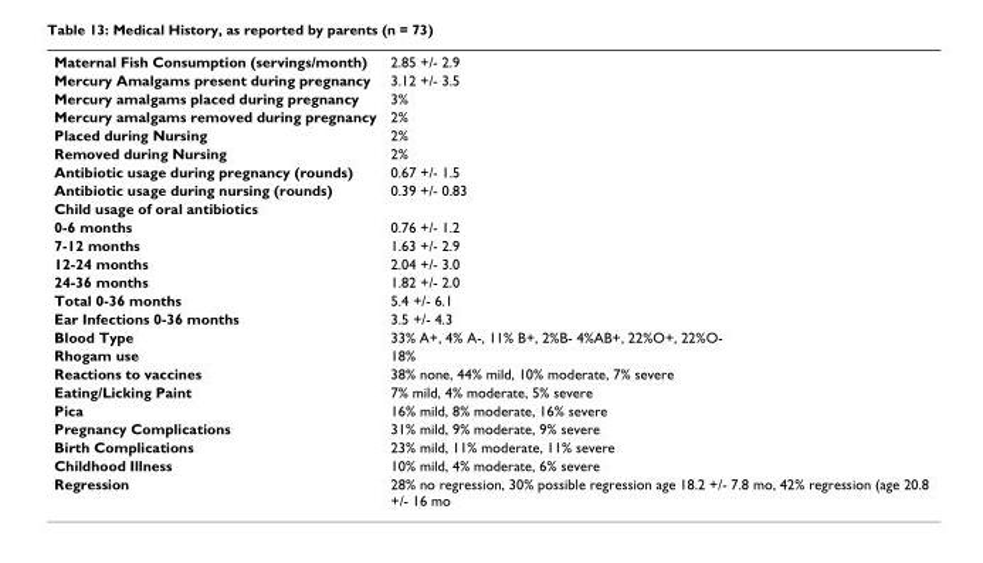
<table><tbody><tr><td>Maternal Fish Consumption (servings/month)</td><td>2.85 +/- 2.9</td></tr><tr><td>Mercury Amalgams present during pregnancy</td><td>3.12 +/- 3.5</td></tr><tr><td>Mercury amalgams placed during pregnancy</td><td>3%</td></tr><tr><td>Mercury amalgams removed during pregnancy</td><td>2%</td></tr><tr><td>Placed during Nursing</td><td>2%</td></tr><tr><td>Removed during Nursing</td><td>2%</td></tr><tr><td>Antibiotic usage during pregnancy (rounds)</td><td>0.67 +/- 1.5</td></tr><tr><td>Antibiotic usage during nursing (rounds)</td><td>0.39 +/- 0.83</td></tr><tr><td colspan="2">Child usage of oral antibiotics</td></tr><tr><td>0-6 months</td><td>0.76 +/- 1.2</td></tr><tr><td>7-12 months</td><td>1.63 +/- 2.9</td></tr><tr><td>12-24 months</td><td>2.04 +/- 3.0</td></tr><tr><td>24-36 months</td><td>1.82 +/- 2.0</td></tr><tr><td>Total 0-36 months</td><td>5.4 +/- 6.1</td></tr><tr><td>Ear Infections 0-36 months</td><td>3.5 +/- 4.3</td></tr><tr><td>Blood Type</td><td>33% A+, 4% A-, 11% B+, 2%B- 4%AB+, 22%O+, 22%O-</td></tr><tr><td>Rhogam use</td><td>18%</td></tr><tr><td>Reactions to vaccines</td><td>38% none, 44% mild, 10% moderate, 7% severe</td></tr><tr><td>Eating/Licking Paint</td><td>7% mild, 4% moderate, 5% severe</td></tr><tr><td>Pica</td><td>16% mild, 8% moderate, 16% severe</td></tr><tr><td>Pregnancy Complications</td><td>31% mild, 9% moderate, 9% severe</td></tr><tr><td>Birth Complications</td><td>23% mild, 11% moderate, 11% severe</td></tr><tr><td>Childhood Illness</td><td>10% mild, 4% moderate, 6% severe</td></tr><tr><td>Regression</td><td>28% no regression, 30% possible regression age 18.2 +/- 7.8 mo, 42% regression (age 20.8 +/- 16 mo</td></tr></tbody></table>